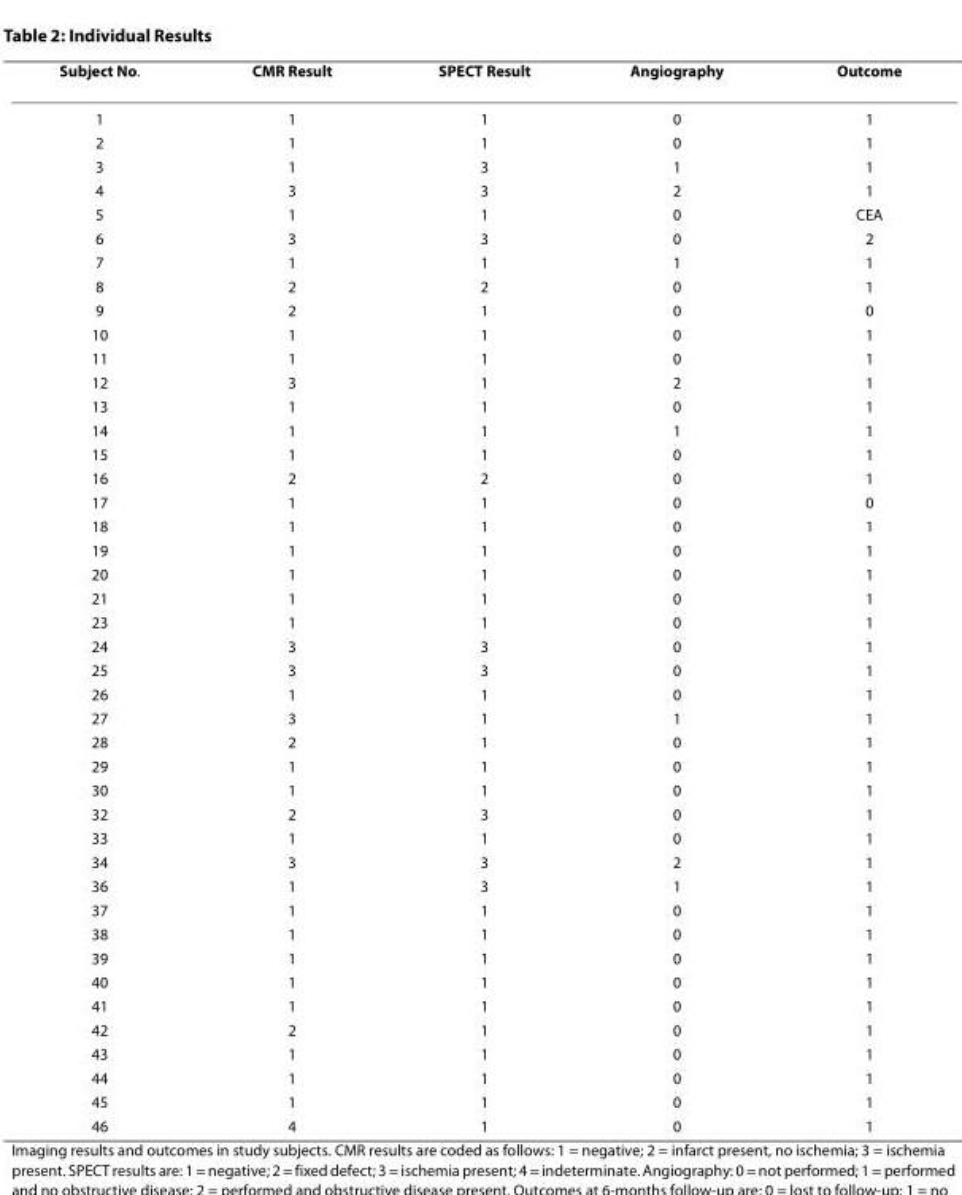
<table><thead><tr><td>Subject No.</td><td>CMR Result</td><td>SPECT Result</td><td>Angiography</td><td>Outcome</td></tr></thead><tbody><tr><td>1</td><td>1</td><td>1</td><td>0</td><td>1</td></tr><tr><td>2</td><td>1</td><td>1</td><td>0</td><td>1</td></tr><tr><td>3</td><td>1</td><td>3</td><td>1</td><td>1</td></tr><tr><td>4</td><td>3</td><td>3</td><td>2</td><td>1</td></tr><tr><td>5</td><td>1</td><td>1</td><td>0</td><td>CEA</td></tr><tr><td>6</td><td>3</td><td>3</td><td>0</td><td>2</td></tr><tr><td>7</td><td>1</td><td>1</td><td>1</td><td>1</td></tr><tr><td>8</td><td>2</td><td>2</td><td>0</td><td>1</td></tr><tr><td>9</td><td>2</td><td>1</td><td>0</td><td>0</td></tr><tr><td>10</td><td>1</td><td>1</td><td>0</td><td>1</td></tr><tr><td>11</td><td>1</td><td>1</td><td>0</td><td>1</td></tr><tr><td>12</td><td>3</td><td>1</td><td>2</td><td>1</td></tr><tr><td>13</td><td>1</td><td>1</td><td>0</td><td>1</td></tr><tr><td>14</td><td>1</td><td>1</td><td>1</td><td>1</td></tr><tr><td>15</td><td>1</td><td>1</td><td>0</td><td>1</td></tr><tr><td>16</td><td>2</td><td>2</td><td>0</td><td>1</td></tr><tr><td>17</td><td>1</td><td>1</td><td>0</td><td>0</td></tr><tr><td>18</td><td>1</td><td>1</td><td>0</td><td>1</td></tr><tr><td>19</td><td>1</td><td>1</td><td>0</td><td>1</td></tr><tr><td>20</td><td>1</td><td>1</td><td>0</td><td>1</td></tr><tr><td>21</td><td>1</td><td>1</td><td>0</td><td>1</td></tr><tr><td>23</td><td>1</td><td>1</td><td>0</td><td>1</td></tr><tr><td>24</td><td>3</td><td>3</td><td>0</td><td>1</td></tr><tr><td>25</td><td>3</td><td>3</td><td>0</td><td>1</td></tr><tr><td>26</td><td>1</td><td>1</td><td>0</td><td>1</td></tr><tr><td>27</td><td>3</td><td>1</td><td>1</td><td>1</td></tr><tr><td>28</td><td>2</td><td>1</td><td>0</td><td>1</td></tr><tr><td>29</td><td>1</td><td>1</td><td>0</td><td>1</td></tr><tr><td>30</td><td>1</td><td>1</td><td>0</td><td>1</td></tr><tr><td>32</td><td>2</td><td>3</td><td>0</td><td>1</td></tr><tr><td>33</td><td>1</td><td>1</td><td>0</td><td>1</td></tr><tr><td>34</td><td>3</td><td>3</td><td>2</td><td>1</td></tr><tr><td>36</td><td>1</td><td>3</td><td>1</td><td>1</td></tr><tr><td>37</td><td>1</td><td>1</td><td>0</td><td>1</td></tr><tr><td>38</td><td>1</td><td>1</td><td>0</td><td>1</td></tr><tr><td>39</td><td>1</td><td>1</td><td>0</td><td>1</td></tr><tr><td>40</td><td>1</td><td>1</td><td>0</td><td>1</td></tr><tr><td>41</td><td>1</td><td>1</td><td>0</td><td>1</td></tr><tr><td>42</td><td>2</td><td>1</td><td>0</td><td>1</td></tr><tr><td>43</td><td>1</td><td>1</td><td>0</td><td>1</td></tr><tr><td>44</td><td>1</td><td>1</td><td>0</td><td>1</td></tr><tr><td>45</td><td>1</td><td>1</td><td>0</td><td>1</td></tr><tr><td>46</td><td>4</td><td>1</td><td>0</td><td>1</td></tr></tbody></table>